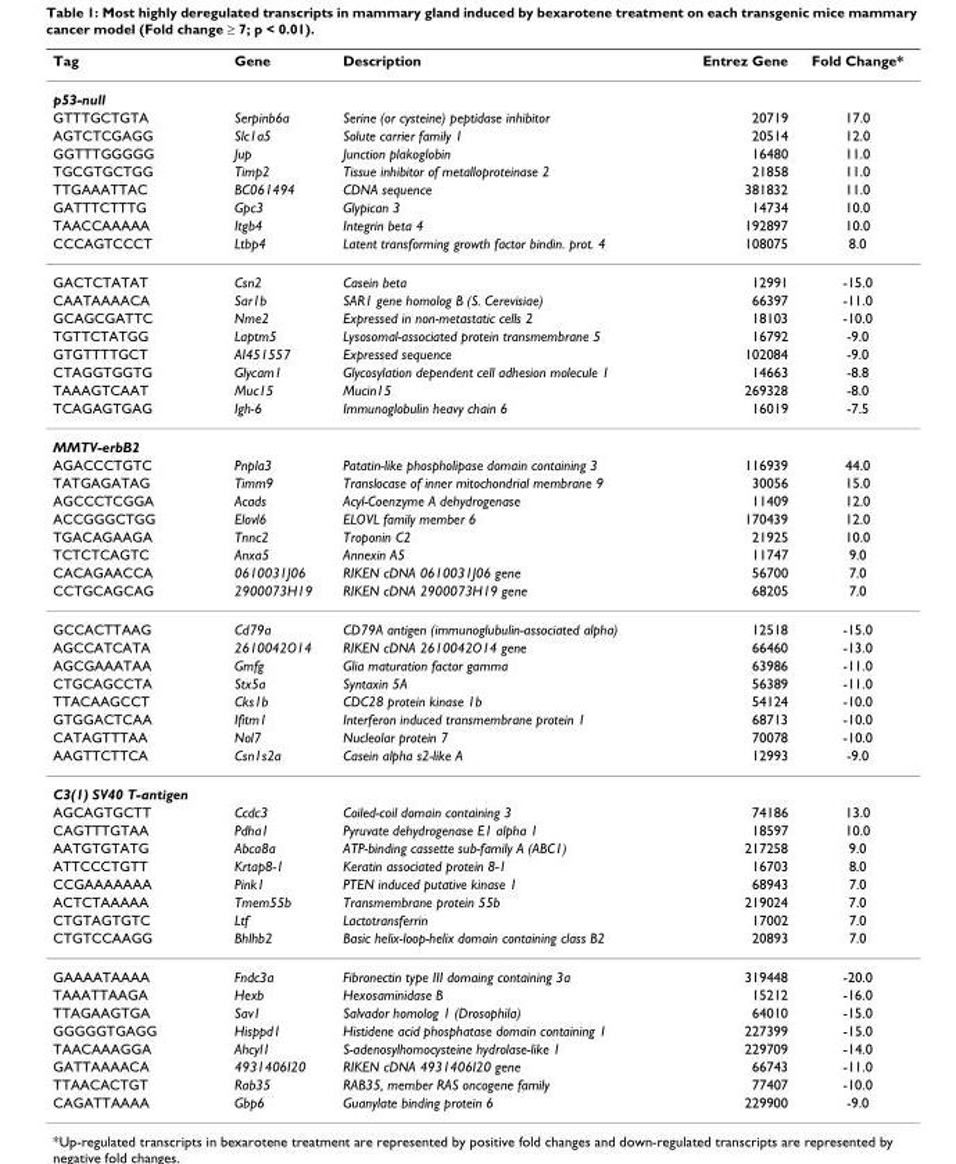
<table><thead><tr><td>Tag</td><td>Gene</td><td>Description</td><td>Entrez Gene</td><td>Fold Change*</td></tr></thead><tbody><tr><td colspan="5">p53-null</td></tr><tr><td>GTTTGCTGTA</td><td>Serpinb6a</td><td>Serine (or cysteine) peptidase inhibitor</td><td>20719</td><td>17.0</td></tr><tr><td>AGTCTCGAGG</td><td>Slc1a5</td><td>Solute carrier family 1</td><td>20514</td><td>12.0</td></tr><tr><td>GGTTTGGGGG</td><td>Jup</td><td>Junction plakoglobin</td><td>16480</td><td>11.0</td></tr><tr><td>TGCGTGCTGG</td><td>Timp2</td><td>Tissue inhibitor of metalloproteinase 2</td><td>21858</td><td>11.0</td></tr><tr><td>TTGAAATTAC</td><td>BC061494</td><td>CDNA sequence</td><td>381832</td><td>11.0</td></tr><tr><td>GATTTCTTTG</td><td>Gpc3</td><td>Glypican 3</td><td>14734</td><td>10.0</td></tr><tr><td>TAACCAAAAA</td><td>Itgb4</td><td>Integrin beta 4</td><td>192897</td><td>10.0</td></tr><tr><td>CCCAGTCCCT</td><td>Ltbp4</td><td>Latent transforming growth factor bindin. prot. 4</td><td>108075</td><td>8.0</td></tr><tr><td>GACTCTATAT</td><td>Csn2</td><td>Casein beta</td><td>12991</td><td>-15.0</td></tr><tr><td>CAATAAAACA</td><td>Sar1b</td><td>SAR1 gene homolog B (S. Cerevisiae)</td><td>66397</td><td>-11.0</td></tr><tr><td>GCAGCGATTC</td><td>Nme2</td><td>Expressed in non-metastatic cells 2</td><td>18103</td><td>-10.0</td></tr><tr><td>TGTTCTATGG</td><td>Laptm5</td><td>Lysosomal-associated protein transmembrane 5</td><td>16792</td><td>-9.0</td></tr><tr><td>GTGTTTTGCT</td><td>AI451557</td><td>Expressed sequence</td><td>102084</td><td>-9.0</td></tr><tr><td>CTAGGTGGTG</td><td>Glycam1</td><td>Glycosylation dependent cell adhesion molecule 1</td><td>14663</td><td>-8.8</td></tr><tr><td>TAAAGTCAAT</td><td>Muc15</td><td>Mucin15</td><td>269328</td><td>-8.0</td></tr><tr><td>TCAGAGTGAG</td><td>Igh-6</td><td>Immunoglobulin heavy chain 6</td><td>16019</td><td>-7.5</td></tr><tr><td colspan="5">MMTV-erbB2</td></tr><tr><td>AGACCCTGTC</td><td>Pnpla3</td><td>Patatin-like phospholipase domain containing 3</td><td>116939</td><td>44.0</td></tr><tr><td>TATGAGATAG</td><td>Timm9</td><td>Translocase of inner mitochondrial membrane 9</td><td>30056</td><td>15.0</td></tr><tr><td>AGCCCTCGGA</td><td>Acads</td><td>Acyl-Coenzyme A dehydrogenase</td><td>11409</td><td>12.0</td></tr><tr><td>ACCGGGCTGG</td><td>Elovl6</td><td>ELOVL family member 6</td><td>170439</td><td>12.0</td></tr><tr><td>TGACAGAAGA</td><td>Tnnc2</td><td>Troponin C2</td><td>21925</td><td>10.0</td></tr><tr><td>TCTCTCAGTC</td><td>Anxa5</td><td>Annexin A5</td><td>11747</td><td>9.0</td></tr><tr><td>CACAGAACCA</td><td>0610031J06</td><td>RIKEN cDNA 0610031J06 gene</td><td>56700</td><td>7.0</td></tr><tr><td>CCTGCAGCAG</td><td>2900073H19</td><td>RIKEN cDNA 2900073H19 gene</td><td>68205</td><td>7.0</td></tr><tr><td>GCCACTTAAG</td><td>Cd79a</td><td>CD79A antigen (immunoglubulin-associated alpha)</td><td>12518</td><td>-15.0</td></tr><tr><td>AGCCATCATA</td><td>2610042O14</td><td>RIKEN cDNA 2610042O14 gene</td><td>66460</td><td>-13.0</td></tr><tr><td>AGCGAAATAA</td><td>Gmfg</td><td>Glia maturation factor gamma</td><td>63986</td><td>-11.0</td></tr><tr><td>CTGCAGCCTA</td><td>Stx5a</td><td>Syntaxin 5A</td><td>56389</td><td>-11.0</td></tr><tr><td>TTACAAGCCT</td><td>Cks1b</td><td>CDC28 protein kinase 1b</td><td>54124</td><td>-10.0</td></tr><tr><td>GTGGACTCAA</td><td>Ifitm1</td><td>Interferon induced transmembrane protein 1</td><td>68713</td><td>-10.0</td></tr><tr><td>CATAGTTTAA</td><td>Nol7</td><td>Nucleolar protein 7</td><td>70078</td><td>-10.0</td></tr><tr><td>AAGTTCTTCA</td><td>Csn1s2a</td><td>Casein alpha s2-like A</td><td>12993</td><td>-9.0</td></tr><tr><td colspan="5">C3(1) SV40 T-antigen</td></tr><tr><td>AGCAGTGCTT</td><td>Ccdc3</td><td>Coiled-coil domain containing 3</td><td>74186</td><td>13.0</td></tr><tr><td>CAGTTTGTAA</td><td>Pdha1</td><td>Pyruvate dehydrogenase E1 alpha 1</td><td>18597</td><td>10.0</td></tr><tr><td>AATGTGTATG</td><td>Abca8a</td><td>ATP-binding cassette sub-family A (ABC1)</td><td>217258</td><td>9.0</td></tr><tr><td>ATTCCCTGTT</td><td>Krtap8-1</td><td>Keratin associated protein 8-1</td><td>16703</td><td>8.0</td></tr><tr><td>CCGAAAAAAA</td><td>Pink1</td><td>PTEN induced putative kinase 1</td><td>68943</td><td>7.0</td></tr><tr><td>ACTCTAAAAA</td><td>Tmem55b</td><td>Transmembrane protein 55b</td><td>219024</td><td>7.0</td></tr><tr><td>CTGTAGTGTC</td><td>Ltf</td><td>Lactotransferrin</td><td>17002</td><td>7.0</td></tr><tr><td>CTGTCCAAGG</td><td>Bhlhb2</td><td>Basic helix-loop-helix domain containing class B2</td><td>20893</td><td>7.0</td></tr><tr><td>GAAAATAAAA</td><td>Fndc3a</td><td>Fibronectin type III domaing containing 3a</td><td>319448</td><td>-20.0</td></tr><tr><td>TAAATTAAGA</td><td>Hexb</td><td>Hexosaminidase B</td><td>15212</td><td>-16.0</td></tr><tr><td>TTAGAAGTGA</td><td>Sav1</td><td>Salvador homolog 1 (Drosophila)</td><td>64010</td><td>-15.0</td></tr><tr><td>GGGGGTGAGG</td><td>Hisppd1</td><td>Histidene acid phosphatase domain containing 1</td><td>227399</td><td>-15.0</td></tr><tr><td>TAACAAAGGA</td><td>Ahcyl1</td><td>S-adenosylhomocysteine hydrolase-like 1</td><td>229709</td><td>-14.0</td></tr><tr><td>GATTAAAACA</td><td>4931406I20</td><td>RIKEN cDNA 4931406I20 gene</td><td>66743</td><td>-11.0</td></tr><tr><td>TTAACACTGT</td><td>Rab35</td><td>RAB35, member RAS oncogene family</td><td>77407</td><td>-10.0</td></tr><tr><td>CAGATTAAAA</td><td>Gbp6</td><td>Guanylate binding protein 6</td><td>229900</td><td>-9.0</td></tr></tbody></table>